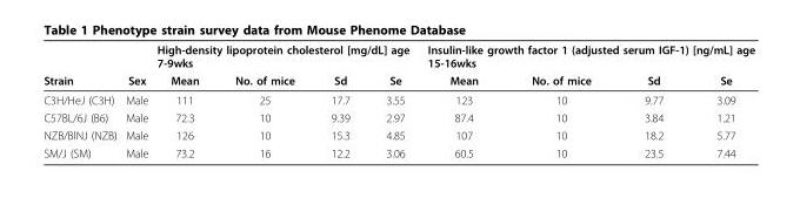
<table><thead><tr><td rowspan="2">Strain</td><td rowspan="2">Sex</td><td colspan="4">High-density lipoprotein cholesterol [mg/dL] age 7-9wks</td><td colspan="4">Insulin-like growth factor 1 (adjusted serum IGF-1) [ng/mL] age 15-16wks</td></tr><tr><td>Mean</td><td>No. of mice</td><td>Sd</td><td>Se</td><td>Mean</td><td>No. of mice</td><td>Sd</td><td>Se</td></tr></thead><tbody><tr><td>C3H/HeJ (C3H)</td><td>Male</td><td>111</td><td>25</td><td>17.7</td><td>3.55</td><td>123</td><td>10</td><td>9.77</td><td>3.09</td></tr><tr><td>C57BL/6J (B6)</td><td>Male</td><td>72.3</td><td>10</td><td>9.39</td><td>2.97</td><td>87.4</td><td>10</td><td>3.84</td><td>1.21</td></tr><tr><td>NZB/BlNJ (NZB)</td><td>Male</td><td>126</td><td>10</td><td>15.3</td><td>4.85</td><td>107</td><td>10</td><td>18.2</td><td>5.77</td></tr><tr><td>SM/J (SM)</td><td>Male</td><td>73.2</td><td>16</td><td>12.2</td><td>3.06</td><td>60.5</td><td>10</td><td>23.5</td><td>7.44</td></tr></tbody></table>